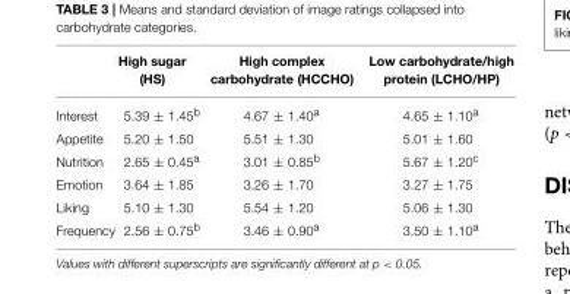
<table><thead><tr><td></td><td>High sugar (HS)</td><td>High complex carbohydrate (HCCHO)</td><td>Low carbohydrate/high protein (LCHO/HP)</td></tr></thead><tbody><tr><td>Interest</td><td>5.39 ± 1.45<sup>b</sup></td><td>4.67 ± 1.40<sup>a</sup></td><td>4.65 ± 1.10<sup>a</sup></td></tr><tr><td>Appetite</td><td>5.20 ± 1.50</td><td>5.51 ± 1.30</td><td>5.01 ± 1.60</td></tr><tr><td>Nutrition</td><td>2.65 ± 0.45<sup>a</sup></td><td>3.01 ± 0.85<sup>b</sup></td><td>5.67 ± 1.20<sup>c</sup></td></tr><tr><td>Emotion</td><td>3.64 ± 1.85</td><td>3.26 ± 1.70</td><td>3.27 ± 1.75</td></tr><tr><td>Liking</td><td>5.10 ± 1.30</td><td>5.54 ± 1.20</td><td>5.06 ± 1.30</td></tr><tr><td>Frequency</td><td>2.56 ± 0.75<sup>b</sup></td><td>3.46 ± 0.90<sup>a</sup></td><td>3.50 ± 1.10<sup>a</sup></td></tr></tbody></table>